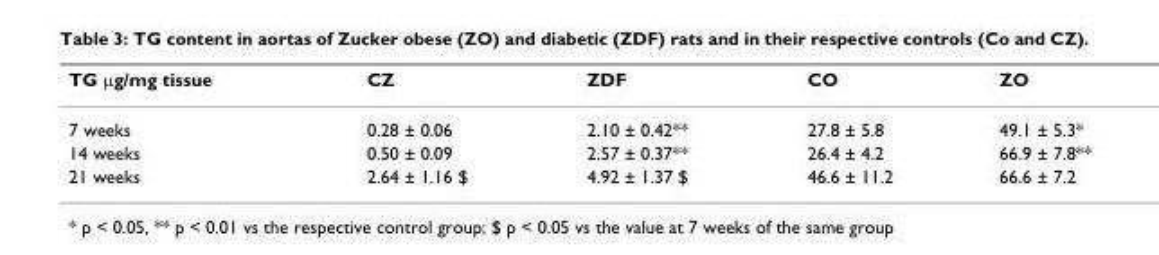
<table><thead><tr><td>TG μg/mg tissue</td><td>CZ</td><td>ZDF</td><td>CO</td><td>ZO</td></tr></thead><tbody><tr><td>7 weeks</td><td>0.28 ± 0.06</td><td>2.10 ± 0.42**</td><td>27.8 ± 5.8</td><td>49.1 ± 5.3*</td></tr><tr><td>14 weeks</td><td>0.50 ± 0.09</td><td>2.57 ± 0.37**</td><td>26.4 ± 4.2</td><td>66.9 ± 7.8**</td></tr><tr><td>21 weeks</td><td>2.64 ± 1.16 $</td><td>4.92 ± 1.37 $</td><td>46.6 ± 11.2</td><td>66.6 ± 7.2</td></tr></tbody></table>